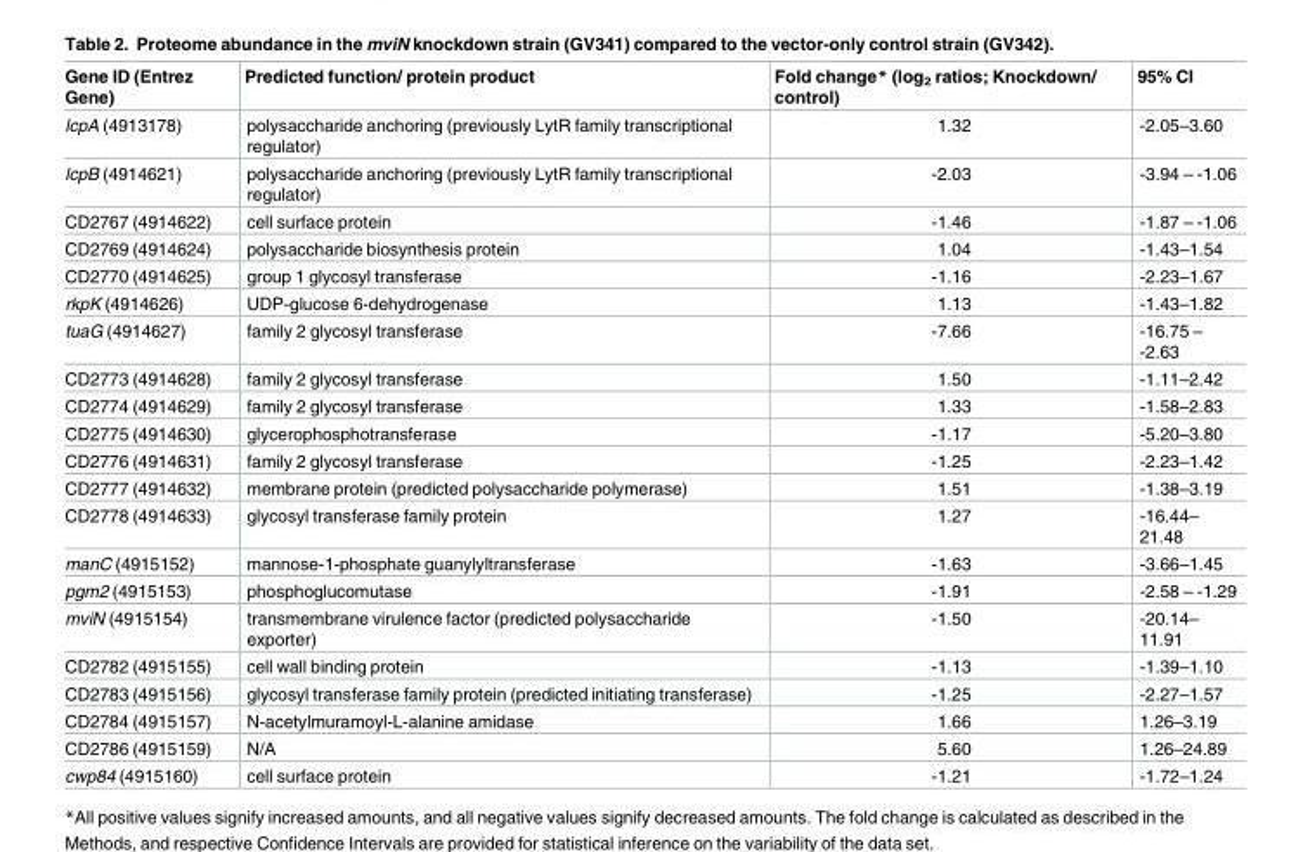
<table><thead><tr><td>Gene ID (Entrez Gene)</td><td>Predicted function/ protein product</td><td>Fold change* (log<sub>2</sub> ratios; Knockdown/ control)</td><td>95% CI</td></tr></thead><tbody><tr><td>lcpA (4913178)</td><td>polysaccharide anchoring (previously LytR family transcriptional regulator)</td><td>1.32</td><td>-2.05–3.60</td></tr><tr><td>lcpB (4914621)</td><td>polysaccharide anchoring (previously LytR family transcriptional regulator)</td><td>-2.03</td><td>-3.94 – -1.06</td></tr><tr><td>CD2767 (4914622)</td><td>cell surface protein</td><td>-1.46</td><td>-1.87 – -1.06</td></tr><tr><td>CD2769 (4914624)</td><td>polysaccharide biosynthesis protein</td><td>1.04</td><td>-1.43–1.54</td></tr><tr><td>CD2770 (4914625)</td><td>group 1 glycosyl transferase</td><td>-1.16</td><td>-2.23–1.67</td></tr><tr><td>rkpK (4914626)</td><td>UDP-glucose 6-dehydrogenase</td><td>1.13</td><td>-1.43–1.82</td></tr><tr><td>tuaG (4914627)</td><td>family 2 glycosyl transferase</td><td>-7.66</td><td>-16.75 – -2.63</td></tr><tr><td>CD2773 (4914628)</td><td>family 2 glycosyl transferase</td><td>1.50</td><td>-1.11–2.42</td></tr><tr><td>CD2774 (4914629)</td><td>family 2 glycosyl transferase</td><td>1.33</td><td>-1.58–2.83</td></tr><tr><td>CD2775 (4914630)</td><td>glycerophosphotransferase</td><td>-1.17</td><td>-5.20–3.80</td></tr><tr><td>CD2776 (4914631)</td><td>family 2 glycosyl transferase</td><td>-1.25</td><td>-2.23–1.42</td></tr><tr><td>CD2777 (4914632)</td><td>membrane protein (predicted polysaccharide polymerase)</td><td>1.51</td><td>-1.38–3.19</td></tr><tr><td>CD2778 (4914633)</td><td>glycosyl transferase family protein</td><td>1.27</td><td>-16.44– 21.48</td></tr><tr><td>manC (4915152)</td><td>mannose-1-phosphate guanylyltransferase</td><td>-1.63</td><td>-3.66–1.45</td></tr><tr><td>pgm2 (4915153)</td><td>phosphoglucomutase</td><td>-1.91</td><td>-2.58 – -1.29</td></tr><tr><td>mviN (4915154)</td><td>transmembrane virulence factor (predicted polysaccharide exporter)</td><td>-1.50</td><td>-20.14– 11.91</td></tr><tr><td>CD2782 (4915155)</td><td>cell wall binding protein</td><td>-1.13</td><td>-1.39–1.10</td></tr><tr><td>CD2783 (4915156)</td><td>glycosyl transferase family protein (predicted initiating transferase)</td><td>-1.25</td><td>-2.27–1.57</td></tr><tr><td>CD2784 (4915157)</td><td>N-acetylmuramoyl-L-alanine amidase</td><td>1.66</td><td>1.26–3.19</td></tr><tr><td>CD2786 (4915159)</td><td>N/A</td><td>5.60</td><td>1.26–24.89</td></tr><tr><td>cwp84 (4915160)</td><td>cell surface protein</td><td>-1.21</td><td>-1.72–1.24</td></tr></tbody></table>